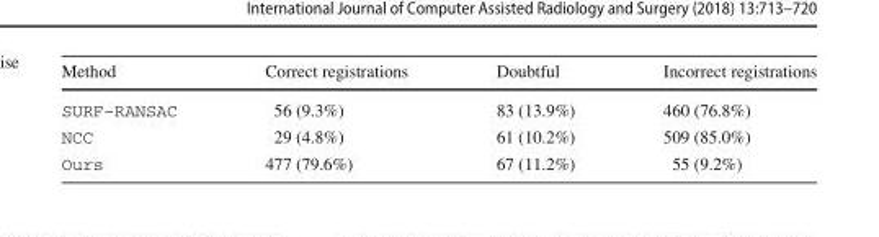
<table><thead><tr><td>Method</td><td>Correct registrations</td><td>Doubtful</td><td>Incorrect registrations</td></tr></thead><tbody><tr><td>SURF–RANSAC</td><td>56 (9.3%)</td><td>83 (13.9%)</td><td>460 (76.8%)</td></tr><tr><td>NCC</td><td>29 (4.8%)</td><td>61 (10.2%)</td><td>509 (85.0%)</td></tr><tr><td>Ours</td><td>477 (79.6%)</td><td>67 (11.2%)</td><td>55 (9.2%)</td></tr></tbody></table>